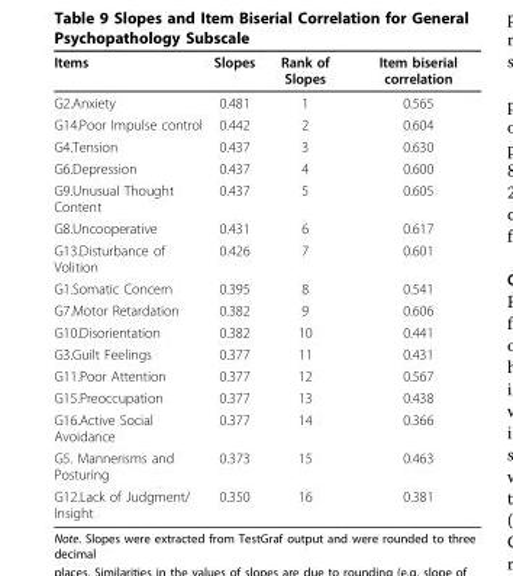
<table><thead><tr><td>Items</td><td>Slopes</td><td>Rank of Slopes</td><td>Item biserial correlation</td></tr></thead><tbody><tr><td>G2.Anxiety</td><td>0.481</td><td>1</td><td>0.565</td></tr><tr><td>G14.Poor Impulse control</td><td>0.442</td><td>2</td><td>0.604</td></tr><tr><td>G4.Tension</td><td>0.437</td><td>3</td><td>0.630</td></tr><tr><td>G6.Depression</td><td>0.437</td><td>4</td><td>0.600</td></tr><tr><td>G9.Unusual Thought Content</td><td>0.437</td><td>5</td><td>0.605</td></tr><tr><td>G8.Uncooperative</td><td>0.431</td><td>6</td><td>0.617</td></tr><tr><td>G13.Disturbance of Volition</td><td>0.426</td><td>7</td><td>0.601</td></tr><tr><td>G1.Somatic Concern</td><td>0.395</td><td>8</td><td>0.541</td></tr><tr><td>G7.Motor Retardation</td><td>0.382</td><td>9</td><td>0.606</td></tr><tr><td>G10.Disorientation</td><td>0.382</td><td>10</td><td>0.441</td></tr><tr><td>G3.Guilt Feelings</td><td>0.377</td><td>11</td><td>0.431</td></tr><tr><td>G11.Poor Attention</td><td>0.377</td><td>12</td><td>0.567</td></tr><tr><td>G15.Preoccupation</td><td>0.377</td><td>13</td><td>0.438</td></tr><tr><td>G16.Active Social Avoidance</td><td>0.377</td><td>14</td><td>0.366</td></tr><tr><td>G5. Mannerisms and Posturing</td><td>0.373</td><td>15</td><td>0.463</td></tr><tr><td>G12.Lack of Judgment/ Insight</td><td>0.350</td><td>16</td><td>0.381</td></tr></tbody></table>